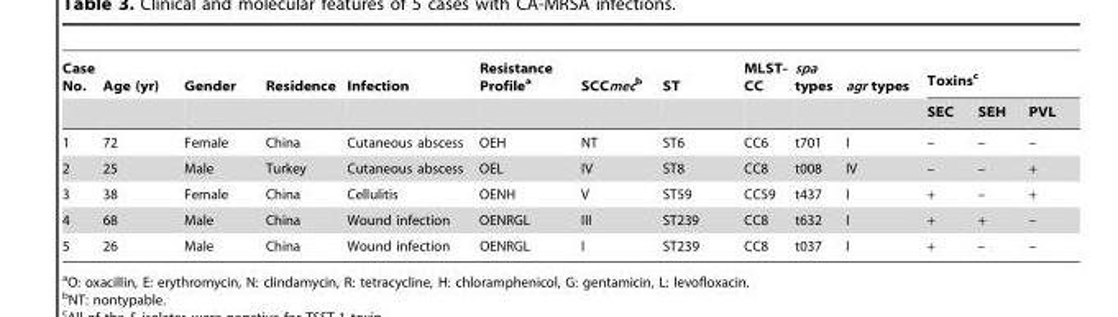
<table><thead><tr><td rowspan="2">Case No.</td><td rowspan="2">Age (yr)</td><td rowspan="2">Gender</td><td rowspan="2">Residence</td><td rowspan="2">Infection</td><td rowspan="2">Resistance Profile<sup>a</sup></td><td rowspan="2">SCCmecb</td><td rowspan="2">ST</td><td rowspan="2">MLST- CC</td><td rowspan="2">spa types</td><td rowspan="2">agr types</td><td colspan="3">Toxins<sup>c</sup></td></tr><tr><td>SEC</td><td>SEH</td><td>PVL</td></tr></thead><tbody><tr><td>1</td><td>72</td><td>Female</td><td>China</td><td>Cutaneous abscess</td><td>OEH</td><td>NT</td><td>ST6</td><td>CC6</td><td>t701</td><td>I</td><td>–</td><td>–</td><td>–</td></tr><tr><td>2</td><td>25</td><td>Male</td><td>Turkey</td><td>Cutaneous abscess</td><td>OEL</td><td>IV</td><td>ST8</td><td>CC8</td><td>t008</td><td>IV</td><td>–</td><td>–</td><td>+</td></tr><tr><td>3</td><td>38</td><td>Female</td><td>China</td><td>Cellulitis</td><td>OENH</td><td>V</td><td>ST59</td><td>CC59</td><td>t437</td><td>I</td><td>+</td><td>–</td><td>+</td></tr><tr><td>4</td><td>68</td><td>Male</td><td>China</td><td>Wound infection</td><td>OENRGL</td><td>III</td><td>ST239</td><td>CC8</td><td>t632</td><td>I</td><td>+</td><td>+</td><td>–</td></tr><tr><td>5</td><td>26</td><td>Male</td><td>China</td><td>Wound infection</td><td>OENRGL</td><td>I</td><td>ST239</td><td>CC8</td><td>t037</td><td>I</td><td>+</td><td>–</td><td>–</td></tr></tbody></table>